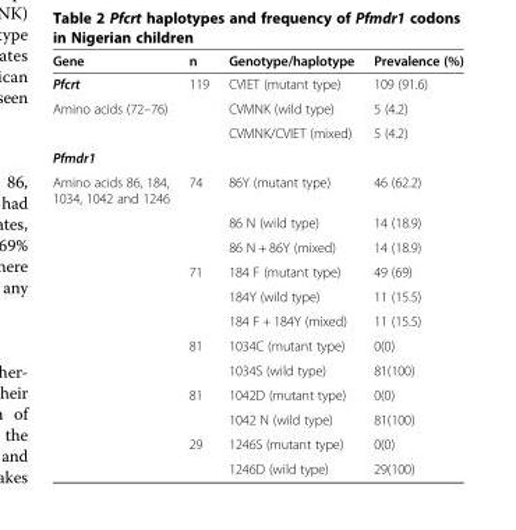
<table><thead><tr><td>Gene</td><td>n</td><td>Genotype/haplotype</td><td>Prevalence (%)</td></tr></thead><tbody><tr><td>Pfcrt</td><td>119</td><td>CVIET (mutant type)</td><td>109 (91.6)</td></tr><tr><td rowspan="2">Amino acids (72–76)</td><td></td><td>CVMNK (wild type)</td><td>5 (4.2)</td></tr><tr><td></td><td>CVMNK/CVIET (mixed)</td><td>5 (4.2)</td></tr><tr><td colspan="4">Pfmdr1</td></tr><tr><td rowspan="12">Amino acids 86, 184, 1034, 1042 and 1246</td><td>74</td><td>86Y (mutant type)</td><td>46 (62.2)</td></tr><tr><td></td><td>86 N (wild type)</td><td>14 (18.9)</td></tr><tr><td></td><td>86 N + 86Y (mixed)</td><td>14 (18.9)</td></tr><tr><td>71</td><td>184 F (mutant type)</td><td>49 (69)</td></tr><tr><td></td><td>184Y (wild type)</td><td>11 (15.5)</td></tr><tr><td></td><td>184 F + 184Y (mixed)</td><td>11 (15.5)</td></tr><tr><td>81</td><td>1034C (mutant type)</td><td>0(0)</td></tr><tr><td></td><td>1034S (wild type)</td><td>81(100)</td></tr><tr><td>81</td><td>1042D (mutant type)</td><td>0(0)</td></tr><tr><td></td><td>1042 N (wild type)</td><td>81(100)</td></tr><tr><td>29</td><td>1246S (mutant type)</td><td>0(0)</td></tr><tr><td></td><td>1246D (wild type)</td><td>29(100)</td></tr></tbody></table>